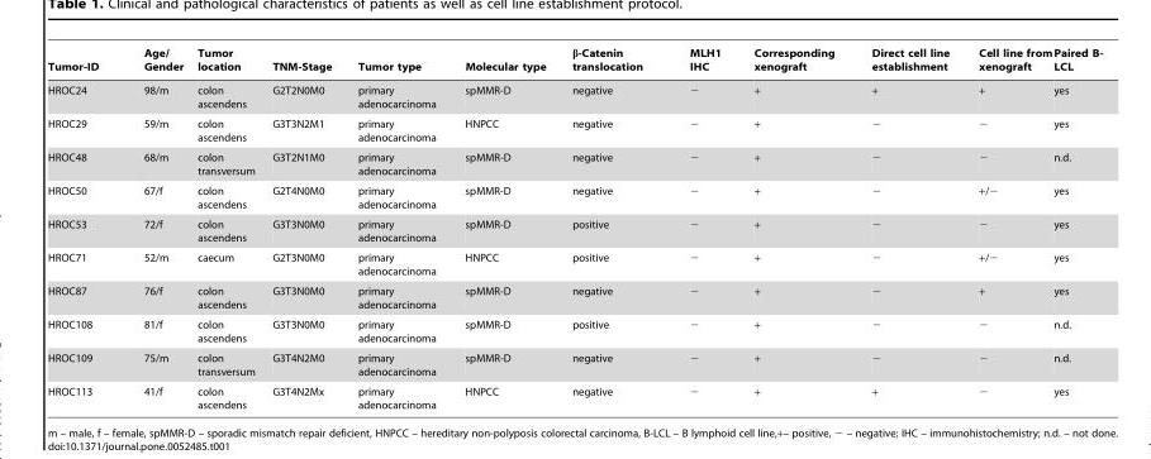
<table><thead><tr><td>Tumor-ID</td><td>Age/ Gender</td><td>Tumor location</td><td>TNM-Stage</td><td>Tumor type</td><td>Molecular type</td><td>β-Catenin translocation</td><td>MLH1 IHC</td><td>Corresponding xenograft</td><td>Direct cell line establishment</td><td>Cell line from xenograft</td><td>Paired B- LCL</td></tr></thead><tbody><tr><td>HROC24</td><td>98/m</td><td>colon ascendens</td><td>G2T2N0M0</td><td>primary adenocarcinoma</td><td>spMMR-D</td><td>negative</td><td>−</td><td>+</td><td>+</td><td>+</td><td>yes</td></tr><tr><td>HROC29</td><td>59/m</td><td>colon ascendens</td><td>G3T3N2M1</td><td>primary adenocarcinoma</td><td>HNPCC</td><td>negative</td><td>−</td><td>+</td><td>−</td><td>−</td><td>yes</td></tr><tr><td>HROC48</td><td>68/m</td><td>colon transversum</td><td>G3T2N1M0</td><td>primary adenocarcinoma</td><td>spMMR-D</td><td>negative</td><td>−</td><td>+</td><td>−</td><td>−</td><td>n.d.</td></tr><tr><td>HROC50</td><td>67/f</td><td>colon ascendens</td><td>G2T4N0M0</td><td>primary adenocarcinoma</td><td>spMMR-D</td><td>negative</td><td>−</td><td>+</td><td>−</td><td>+/−</td><td>yes</td></tr><tr><td>HROC53</td><td>72/f</td><td>colon ascendens</td><td>G3T3N0M0</td><td>primary adenocarcinoma</td><td>spMMR-D</td><td>positive</td><td>−</td><td>+</td><td>−</td><td>−</td><td>yes</td></tr><tr><td>HROC71</td><td>52/m</td><td>caecum</td><td>G2T3N0M0</td><td>primary adenocarcinoma</td><td>HNPCC</td><td>positive</td><td>−</td><td>+</td><td>−</td><td>+/−</td><td>yes</td></tr><tr><td>HROC87</td><td>76/f</td><td>colon ascendens</td><td>G3T3N0M0</td><td>primary adenocarcinoma</td><td>spMMR-D</td><td>negative</td><td>−</td><td>+</td><td>−</td><td>+</td><td>yes</td></tr><tr><td>HROC108</td><td>81/f</td><td>colon ascendens</td><td>G3T3N0M0</td><td>primary adenocarcinoma</td><td>spMMR-D</td><td>positive</td><td>−</td><td>+</td><td>−</td><td>−</td><td>n.d.</td></tr><tr><td>HROC109</td><td>75/m</td><td>colon transversum</td><td>G3T4N2M0</td><td>primary adenocarcinoma</td><td>spMMR-D</td><td>negative</td><td>−</td><td>+</td><td>−</td><td>−</td><td>n.d.</td></tr><tr><td>HROC113</td><td>41/f</td><td>colon ascendens</td><td>G3T4N2Mx</td><td>primary adenocarcinoma</td><td>HNPCC</td><td>negative</td><td>−</td><td>+</td><td>+</td><td>−</td><td>yes</td></tr></tbody></table>